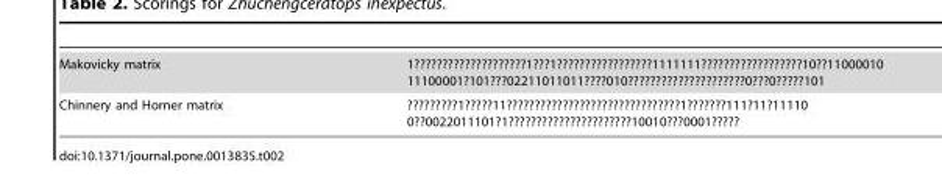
<table><tbody><tr><td>Makovicky matrix</td><td>1????????????????????1???1?????????????????1111111??????????????????10??11000010 11100001?101???02211011011????010?????????????????????0???0?????101</td></tr><tr><td>Chinnery and Horner matrix</td><td>?????????1?????11???????????????????????????????1???????111?11?11110 0??0022011101?1??????????????????????10010???0001?????</td></tr></tbody></table>